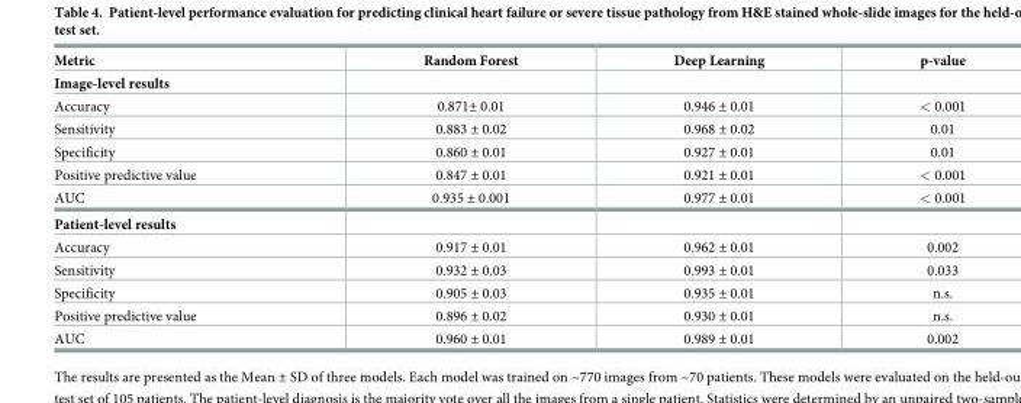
<table><thead><tr><td>Metric</td><td>Random Forest</td><td>Deep Learning</td><td>p-value</td></tr></thead><tbody><tr><td colspan="4">Image-level results</td></tr><tr><td>Accuracy</td><td>0.871± 0.01</td><td>0.946 ± 0.01</td><td>&lt; 0.001</td></tr><tr><td>Sensitivity</td><td>0.883 ± 0.02</td><td>0.968 ± 0.02</td><td>0.01</td></tr><tr><td>Specificity</td><td>0.860 ± 0.01</td><td>0.927 ± 0.01</td><td>0.01</td></tr><tr><td>Positive predictive value</td><td>0.847 ± 0.01</td><td>0.921 ± 0.01</td><td>&lt; 0.001</td></tr><tr><td>AUC</td><td>0.935 ± 0.001</td><td>0.977 ± 0.01</td><td>&lt; 0.001</td></tr><tr><td colspan="4">Patient-level results</td></tr><tr><td>Accuracy</td><td>0.917 ± 0.01</td><td>0.962 ± 0.01</td><td>0.002</td></tr><tr><td>Sensitivity</td><td>0.932 ± 0.03</td><td>0.993 ± 0.01</td><td>0.033</td></tr><tr><td>Specificity</td><td>0.905 ± 0.03</td><td>0.935 ± 0.01</td><td>n.s.</td></tr><tr><td>Positive predictive value</td><td>0.896 ± 0.02</td><td>0.930 ± 0.01</td><td>n.s.</td></tr><tr><td>AUC</td><td>0.960 ± 0.01</td><td>0.989 ± 0.01</td><td>0.002</td></tr></tbody></table>